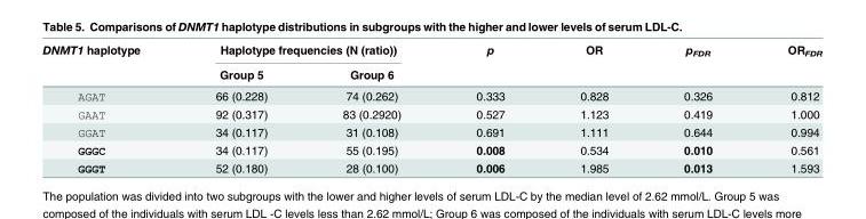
<table><thead><tr><td rowspan="2">DNMT1 haplotype</td><td colspan="2">Haplotype frequencies (N (ratio))</td><td rowspan="2">p</td><td rowspan="2">OR</td><td rowspan="2">p<sub>FDR</sub></td><td rowspan="2">OR<sub>FDR</sub></td></tr><tr><td>Group 5</td><td>Group 6</td></tr></thead><tbody><tr><td>AGAT</td><td>66 (0.228)</td><td>74 (0.262)</td><td>0.333</td><td>0.828</td><td>0.326</td><td>0.812</td></tr><tr><td>GAAT</td><td>92 (0.317)</td><td>83 (0.2920)</td><td>0.527</td><td>1.123</td><td>0.419</td><td>1.000</td></tr><tr><td>GGAT</td><td>34 (0.117)</td><td>31 (0.108)</td><td>0.691</td><td>1.111</td><td>0.644</td><td>0.994</td></tr><tr><td>GGGC</td><td>34 (0.117)</td><td>55 (0.195)</td><td>0.008</td><td>0.534</td><td>0.010</td><td>0.561</td></tr><tr><td>GGGT</td><td>52 (0.180)</td><td>28 (0.100)</td><td>0.006</td><td>1.985</td><td>0.013</td><td>1.593</td></tr></tbody></table>